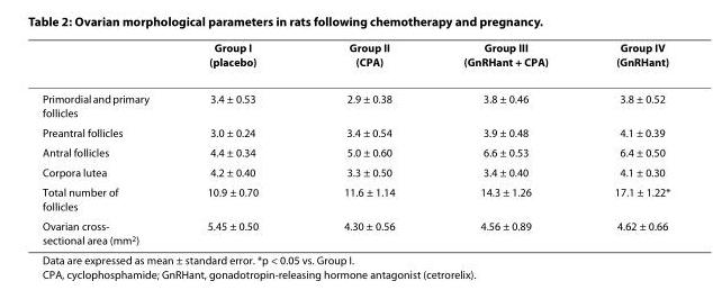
<table><thead><tr><td></td><td>Group I (placebo)</td><td>Group II (CPA)</td><td>Group III (GnRHant + CPA)</td><td>Group IV (GnRHant)</td></tr></thead><tbody><tr><td>Primordial and primary follicles</td><td>3.4 ± 0.53</td><td>2.9 ± 0.38</td><td>3.8 ± 0.46</td><td>3.8 ± 0.52</td></tr><tr><td>Preantral follicles</td><td>3.0 ± 0.24</td><td>3.4 ± 0.54</td><td>3.9 ± 0.48</td><td>4.1 ± 0.39</td></tr><tr><td>Antral follicles</td><td>4.4 ± 0.34</td><td>5.0 ± 0.60</td><td>6.6 ± 0.53</td><td>6.4 ± 0.50</td></tr><tr><td>Corpora lutea</td><td>4.2 ± 0.40</td><td>3.3 ± 0.50</td><td>3.4 ± 0.40</td><td>4.1 ± 0.30</td></tr><tr><td>Total number of follicles</td><td>10.9 ± 0.70</td><td>11.6 ± 1.14</td><td>14.3 ± 1.26</td><td>17.1 ± 1.22*</td></tr><tr><td>Ovarian cross- sectional area (mm<sup>2</sup>)</td><td>5.45 ± 0.50</td><td>4.30 ± 0.56</td><td>4.56 ± 0.89</td><td>4.62 ± 0.66</td></tr></tbody></table>